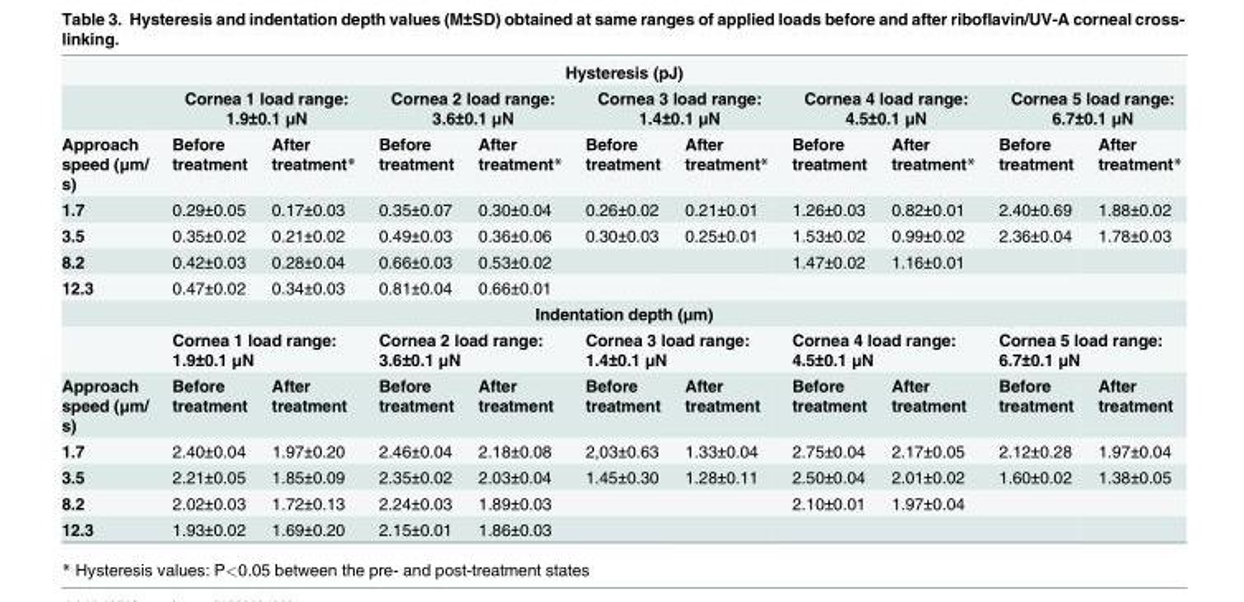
<table><tbody><tr><td colspan="11">Hysteresis (pJ)</td></tr><tr><td></td><td colspan="2">Cornea 1 load range: 1.9±0.1 μN</td><td colspan="2">Cornea 2 load range: 3.6±0.1 μN</td><td colspan="2">Cornea 3 load range: 1.4±0.1 μN</td><td colspan="2">Cornea 4 load range: 4.5±0.1 μN</td><td colspan="2">Cornea 5 load range: 6.7±0.1 μN</td></tr><tr><td>Approach speed (μm/ s)</td><td>Before treatment</td><td>After treatment*</td><td>Before treatment</td><td>After treatment*</td><td>Before treatment</td><td>After treatment*</td><td>Before treatment</td><td>After treatment*</td><td>Before treatment</td><td>After treatment*</td></tr><tr><td>1.7</td><td>0.29±0.05</td><td>0.17±0.03</td><td>0.35±0.07</td><td>0.30±0.04</td><td>0.26±0.02</td><td>0.21±0.01</td><td>1.26±0.03</td><td>0.82±0.01</td><td>2.40±0.69</td><td>1.88±0.02</td></tr><tr><td>3.5</td><td>0.35±0.02</td><td>0.21±0.02</td><td>0.49±0.03</td><td>0.36±0.06</td><td>0.30±0.03</td><td>0.25±0.01</td><td>1.53±0.02</td><td>0.99±0.02</td><td>2.36±0.04</td><td>1.78±0.03</td></tr><tr><td>8.2</td><td>0.42±0.03</td><td>0.28±0.04</td><td>0.66±0.03</td><td>0.53±0.02</td><td></td><td></td><td>1.47±0.02</td><td>1.16±0.01</td><td></td><td></td></tr><tr><td>12.3</td><td>0.47±0.02</td><td>0.34±0.03</td><td>0.81±0.04</td><td>0.66±0.01</td><td></td><td></td><td></td><td></td><td></td><td></td></tr><tr><td colspan="11">Indentation depth (μm)</td></tr><tr><td></td><td colspan="2">Cornea 1 load range: 1.9±0.1 μN</td><td colspan="2">Cornea 2 load range: 3.6±0.1 μN</td><td colspan="2">Cornea 3 load range: 1.4±0.1 μN</td><td colspan="2">Cornea 4 load range: 4.5±0.1 μN</td><td colspan="2">Cornea 5 load range: 6.7±0.1 μN</td></tr><tr><td>Approach speed (μm/ s)</td><td>Before treatment</td><td>After treatment</td><td>Before treatment</td><td>After treatment</td><td>Before treatment</td><td>After treatment</td><td>Before treatment</td><td>After treatment</td><td>Before treatment</td><td>After treatment</td></tr><tr><td>1.7</td><td>2.40±0.04</td><td>1.97±0.20</td><td>2.46±0.04</td><td>2.18±0.08</td><td>2,03±0.63</td><td>1.33±0.04</td><td>2.75±0.04</td><td>2.17±0.05</td><td>2.12±0.28</td><td>1.97±0.04</td></tr><tr><td>3.5</td><td>2.21±0.05</td><td>1.85±0.09</td><td>2.35±0.02</td><td>2.03±0.04</td><td>1.45±0.30</td><td>1.28±0.11</td><td>2.50±0.04</td><td>2.01±0.02</td><td>1.60±0.02</td><td>1.38±0.05</td></tr><tr><td>8.2</td><td>2.02±0.03</td><td>1.72±0.13</td><td>2.24±0.03</td><td>1.89±0.03</td><td></td><td></td><td>2.10±0.01</td><td>1.97±0.04</td><td></td><td></td></tr><tr><td>12.3</td><td>1.93±0.02</td><td>1.69±0.20</td><td>2.15±0.01</td><td>1.86±0.03</td><td></td><td></td><td></td><td></td><td></td><td></td></tr></tbody></table>